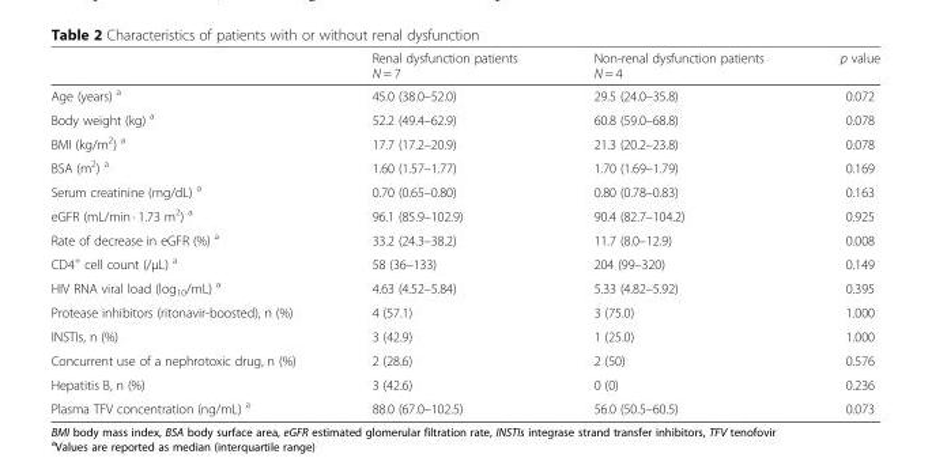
<table><thead><tr><td></td><td>Renal dysfunction patients N = 7</td><td>Non-renal dysfunction patients N = 4</td><td>p value</td></tr></thead><tbody><tr><td>Age (years) <sup>a</sup></td><td>45.0 (38.0–52.0)</td><td>29.5 (24.0–35.8)</td><td>0.072</td></tr><tr><td>Body weight (kg) <sup>a</sup></td><td>52.2 (49.4–62.9)</td><td>60.8 (59.0–68.8)</td><td>0.078</td></tr><tr><td>BMI (kg/m<sup>2</sup>) <sup>a</sup></td><td>17.7 (17.2–20.9)</td><td>21.3 (20.2–23.8)</td><td>0.078</td></tr><tr><td>BSA (m<sup>2</sup>) <sup>a</sup></td><td>1.60 (1.57–1.77)</td><td>1.70 (1.69–1.79)</td><td>0.169</td></tr><tr><td>Serum creatinine (mg/dL) <sup>a</sup></td><td>0.70 (0.65–0.80)</td><td>0.80 (0.78–0.83)</td><td>0.163</td></tr><tr><td>eGFR (mL/min · 1.73 m<sup>2</sup>) <sup>a</sup></td><td>96.1 (85.9–102.9)</td><td>90.4 (82.7–104.2)</td><td>0.925</td></tr><tr><td>Rate of decrease in eGFR (%) <sup>a</sup></td><td>33.2 (24.3–38.2)</td><td>11.7 (8.0–12.9)</td><td>0.008</td></tr><tr><td>CD4<sup>+</sup> cell count (/μL) <sup>a</sup></td><td>58 (36–133)</td><td>204 (99–320)</td><td>0.149</td></tr><tr><td>HIV RNA viral load (log<sub>10</sub>/mL) <sup>a</sup></td><td>4.63 (4.52–5.84)</td><td>5.33 (4.82–5.92)</td><td>0.395</td></tr><tr><td>Protease inhibitors (ritonavir-boosted), n (%)</td><td>4 (57.1)</td><td>3 (75.0)</td><td>1.000</td></tr><tr><td>INSTIs, n (%)</td><td>3 (42.9)</td><td>1 (25.0)</td><td>1.000</td></tr><tr><td>Concurrent use of a nephrotoxic drug, n (%)</td><td>2 (28.6)</td><td>2 (50)</td><td>0.576</td></tr><tr><td>Hepatitis B, n (%)</td><td>3 (42.6)</td><td>0 (0)</td><td>0.236</td></tr><tr><td>Plasma TFV concentration (ng/mL) <sup>a</sup></td><td>88.0 (67.0–102.5)</td><td>56.0 (50.5–60.5)</td><td>0.073</td></tr></tbody></table>